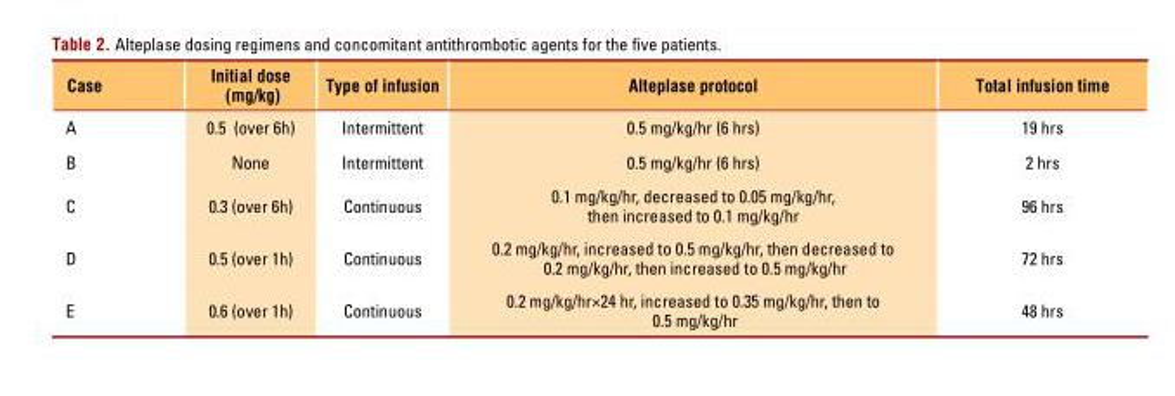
<table><thead><tr><td>Case</td><td>Initial dose (mg/kg)</td><td>Type of infusion</td><td>Alteplase protocol</td><td>Total infusion time</td></tr></thead><tbody><tr><td>A</td><td>0.5 (over 6h)</td><td>Intermittent</td><td>0.5 mg/kg/hr (6 hrs)</td><td>19 hrs</td></tr><tr><td>B</td><td>None</td><td>Intermittent</td><td>0.5 mg/kg/hr (6 hrs)</td><td>2 hrs</td></tr><tr><td>C</td><td>0.3 (over 6h)</td><td>Continuous</td><td>0.1 mg/kg/hr, decreased to 0.05 mg/kg/hr, then increased to 0.1 mg/kg/hr</td><td>96 hrs</td></tr><tr><td>D</td><td>0.5 (over 1h)</td><td>Continuous</td><td>0.2 mg/kg/hr, increased to 0.5 mg/kg/hr, then decreased to 0.2 mg/kg/hr, then increased to 0.5 mg/kg/hr</td><td>72 hrs</td></tr><tr><td>E</td><td>0.6 (over 1h)</td><td>Continuous</td><td>0.2 mg/kg/hr×24 hr, increased to 0.35 mg/kg/hr, then to 0.5 mg/kg/hr</td><td>48 hrs</td></tr></tbody></table>